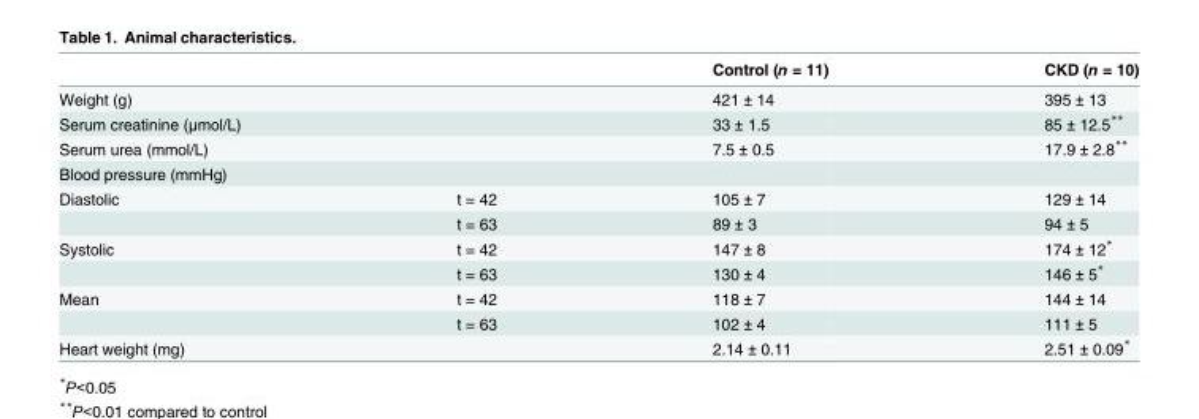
<table><thead><tr><td></td><td></td><td>Control (n = 11)</td><td>CKD (n = 10)</td></tr></thead><tbody><tr><td>Weight (g)</td><td></td><td>421 ± 14</td><td>395 ± 13</td></tr><tr><td>Serum creatinine (μmol/L)</td><td></td><td>33 ± 1.5</td><td>85 ± 12.5**</td></tr><tr><td>Serum urea (mmol/L)</td><td></td><td>7.5 ± 0.5</td><td>17.9 ± 2.8**</td></tr><tr><td colspan="4">Blood pressure (mmHg)</td></tr><tr><td rowspan="2">Diastolic</td><td>t = 42</td><td>105 ± 7</td><td>129 ± 14</td></tr><tr><td>t = 63</td><td>89 ± 3</td><td>94 ± 5</td></tr><tr><td rowspan="2">Systolic</td><td>t = 42</td><td>147 ± 8</td><td>174 ± 12*</td></tr><tr><td>t = 63</td><td>130 ± 4</td><td>146 ± 5*</td></tr><tr><td rowspan="2">Mean</td><td>t = 42</td><td>118 ± 7</td><td>144 ± 14</td></tr><tr><td>t = 63</td><td>102 ± 4</td><td>111 ± 5</td></tr><tr><td>Heart weight (mg)</td><td></td><td>2.14 ± 0.11</td><td>2.51 ± 0.09*</td></tr></tbody></table>